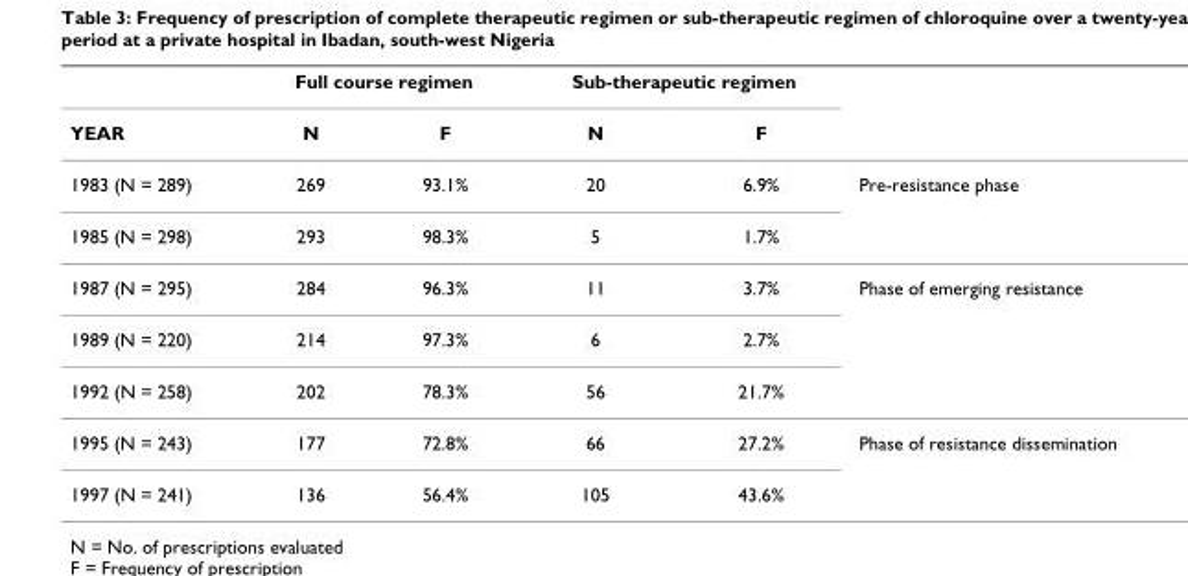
<table><thead><tr><td rowspan="2">YEAR</td><td colspan="2">Full course regimen</td><td colspan="2">Sub-therapeutic regimen</td><td rowspan="2"></td></tr><tr><td>N</td><td>F</td><td>N</td><td>F</td></tr></thead><tbody><tr><td>1983 (N = 289)</td><td>269</td><td>93.1%</td><td>20</td><td>6.9%</td><td>Pre-resistance phase</td></tr><tr><td>1985 (N = 298)</td><td>293</td><td>98.3%</td><td>5</td><td>1.7%</td><td></td></tr><tr><td>1987 (N = 295)</td><td>284</td><td>96.3%</td><td>11</td><td>3.7%</td><td>Phase of emerging resistance</td></tr><tr><td>1989 (N = 220)</td><td>214</td><td>97.3%</td><td>6</td><td>2.7%</td><td></td></tr><tr><td>1992 (N = 258)</td><td>202</td><td>78.3%</td><td>56</td><td>21.7%</td><td></td></tr><tr><td>1995 (N = 243)</td><td>177</td><td>72.8%</td><td>66</td><td>27.2%</td><td>Phase of resistance dissemination</td></tr><tr><td>1997 (N = 241)</td><td>136</td><td>56.4%</td><td>105</td><td>43.6%</td><td></td></tr></tbody></table>